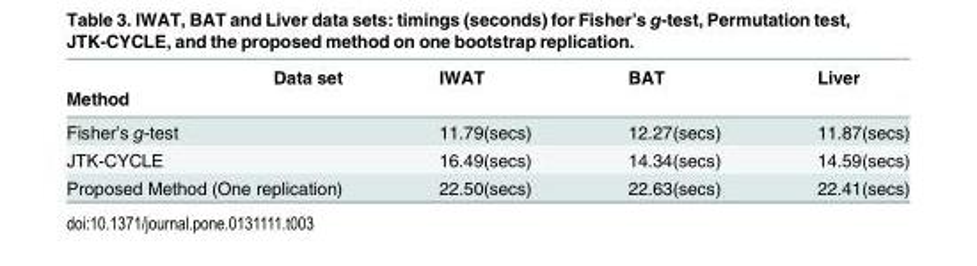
<table><thead><tr><td rowspan="2">Data set Method</td><td rowspan="2">IWAT</td><td rowspan="2">BAT</td><td rowspan="2">Liver</td></tr><tr></tr></thead><tbody><tr><td>Fisher’s g-test</td><td>11.79(secs)</td><td>12.27(secs)</td><td>11.87(secs)</td></tr><tr><td>JTK-CYCLE</td><td>16.49(secs)</td><td>14.34(secs)</td><td>14.59(secs)</td></tr><tr><td>Proposed Method (One replication)</td><td>22.50(secs)</td><td>22.63(secs)</td><td>22.41(secs)</td></tr></tbody></table>